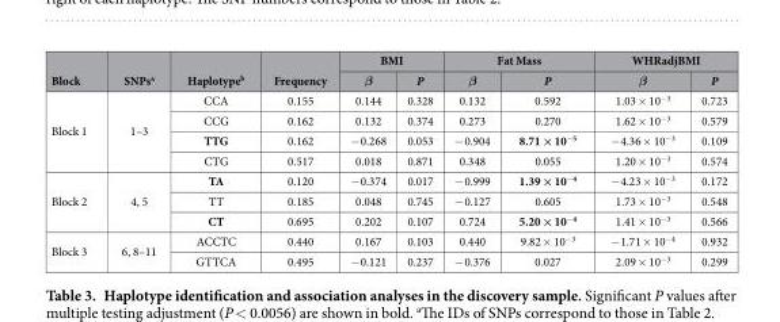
<table><thead><tr><td rowspan="2">Block</td><td rowspan="2">SNPs<sup>a</sup></td><td rowspan="2">Haplotype<sup>b</sup></td><td rowspan="2">Frequency</td><td colspan="2">BMI</td><td colspan="2">Fat Mass</td><td colspan="2">WHRadjBMI</td></tr><tr><td>β</td><td>P</td><td>β</td><td>P</td><td>β</td><td>P</td></tr></thead><tbody><tr><td rowspan="4">Block 1</td><td rowspan="4">1–3</td><td>CCA</td><td>0.155</td><td>0.144</td><td>0.328</td><td>0.132</td><td>0.592</td><td>1.03 × 10<sup>−3</sup></td><td>0.723</td></tr><tr><td>CCG</td><td>0.162</td><td>0.132</td><td>0.374</td><td>0.273</td><td>0.270</td><td>1.62 × 10<sup>−3</sup></td><td>0.579</td></tr><tr><td>TTG</td><td>0.162</td><td>− 0.268</td><td>0.053</td><td>− 0.904</td><td>8.71 × 10<sup>−5</sup></td><td>− 4.36 × 10<sup>−3</sup></td><td>0.109</td></tr><tr><td>CTG</td><td>0.517</td><td>0.018</td><td>0.871</td><td>0.348</td><td>0.055</td><td>1.20 × 10<sup>−3</sup></td><td>0.574</td></tr><tr><td rowspan="3">Block 2</td><td rowspan="3">4, 5</td><td>TA</td><td>0.120</td><td>− 0.374</td><td>0.017</td><td>− 0.999</td><td>1.39 × 10<sup>−4</sup></td><td>− 4.23 × 10<sup>−3</sup></td><td>0.172</td></tr><tr><td>TT</td><td>0.185</td><td>0.048</td><td>0.745</td><td>− 0.127</td><td>0.605</td><td>1.73 × 10<sup>−3</sup></td><td>0.548</td></tr><tr><td>CT</td><td>0.695</td><td>0.202</td><td>0.107</td><td>0.724</td><td>5.20 × 10<sup>−4</sup></td><td>1.41 × 10<sup>−3</sup></td><td>0.566</td></tr><tr><td rowspan="2">Block 3</td><td rowspan="2">6, 8–11</td><td>ACCTC</td><td>0.440</td><td>0.167</td><td>0.103</td><td>0.440</td><td>9.82 × 10<sup>−3</sup></td><td>− 1.71 × 10<sup>−4</sup></td><td>0.932</td></tr><tr><td>GTTCA</td><td>0.495</td><td>− 0.121</td><td>0.237</td><td>− 0.376</td><td>0.027</td><td>2.09 × 10<sup>−3</sup></td><td>0.299</td></tr></tbody></table>